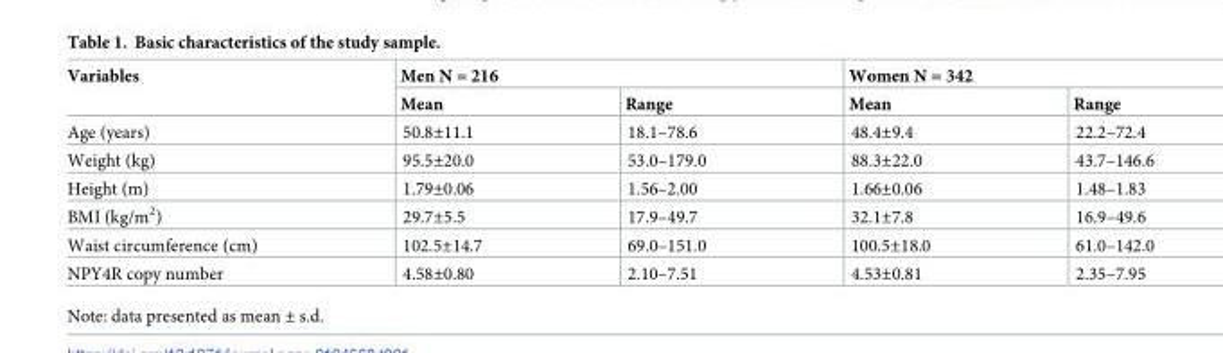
<table><thead><tr><td rowspan="2">Variables</td><td colspan="2">Men N = 216</td><td colspan="2">Women N = 342</td></tr><tr><td>Mean</td><td>Range</td><td>Mean</td><td>Range</td></tr></thead><tbody><tr><td>Age (years)</td><td>50.8±11.1</td><td>18.1–78.6</td><td>48.4±9.4</td><td>22.2–72.4</td></tr><tr><td>Weight (kg)</td><td>95.5±20.0</td><td>53.0–179.0</td><td>88.3±22.0</td><td>43.7–146.6</td></tr><tr><td>Height (m)</td><td>1.79±0.06</td><td>1.56–2.00</td><td>1.66±0.06</td><td>1.48–1.83</td></tr><tr><td>BMI (kg/m<sup>2</sup>)</td><td>29.7±5.5</td><td>17.9–49.7</td><td>32.1±7.8</td><td>16.9–49.6</td></tr><tr><td>Waist circumference (cm)</td><td>102.5±14.7</td><td>69.0–151.0</td><td>100.5±18.0</td><td>61.0–142.0</td></tr><tr><td>NPY4R copy number</td><td>4.58±0.80</td><td>2.10–7.51</td><td>4.53±0.81</td><td>2.35–7.95</td></tr></tbody></table>